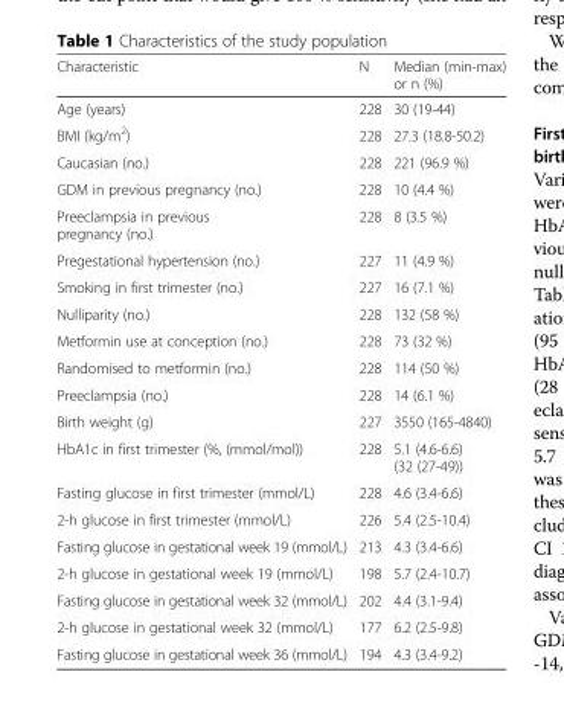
<table><thead><tr><td>Characteristic</td><td>N</td><td>Median (min-max) or n (%)</td></tr></thead><tbody><tr><td>Age (years)</td><td>228</td><td>30 (19-44)</td></tr><tr><td>BMI (kg/m<sup>2</sup>)</td><td>228</td><td>27.3 (18.8-50.2)</td></tr><tr><td>Caucasian (no.)</td><td>228</td><td>221 (96.9 %)</td></tr><tr><td>GDM in previous pregnancy (no.)</td><td>228</td><td>10 (4.4 %)</td></tr><tr><td>Preeclampsia in previous pregnancy (no.)</td><td>228</td><td>8 (3.5 %)</td></tr><tr><td>Pregestational hypertension (no.)</td><td>227</td><td>11 (4.9 %)</td></tr><tr><td>Smoking in first trimester (no.)</td><td>227</td><td>16 (7.1 %)</td></tr><tr><td>Nulliparity (no.)</td><td>228</td><td>132 (58 %)</td></tr><tr><td>Metformin use at conception (no.)</td><td>228</td><td>73 (32 %)</td></tr><tr><td>Randomised to metformin (no.)</td><td>228</td><td>114 (50 %)</td></tr><tr><td>Preeclampsia (no.)</td><td>228</td><td>14 (6.1 %)</td></tr><tr><td>Birth weight (g)</td><td>227</td><td>3550 (165-4840)</td></tr><tr><td>HbA1c in first trimester (%, (mmol/mol))</td><td>228</td><td>5.1 (4.6-6.6) (32 (27-49))</td></tr><tr><td>Fasting glucose in first trimester (mmol/L)</td><td>228</td><td>4.6 (3.4-6.6)</td></tr><tr><td>2-h glucose in first trimester (mmol/L)</td><td>226</td><td>5.4 (2.5-10.4)</td></tr><tr><td>Fasting glucose in gestational week 19 (mmol/L)</td><td>213</td><td>4.3 (3.4-6.6)</td></tr><tr><td>2-h glucose in gestational week 19 (mmol/L)</td><td>198</td><td>5.7 (2.4-10.7)</td></tr><tr><td>Fasting glucose in gestational week 32 (mmol/L)</td><td>202</td><td>4.4 (3.1-9.4)</td></tr><tr><td>2-h glucose in gestational week 32 (mmol/L)</td><td>177</td><td>6.2 (2.5-9.8)</td></tr><tr><td>Fasting glucose in gestational week 36 (mmol/L)</td><td>194</td><td>4.3 (3.4-9.2)</td></tr></tbody></table>